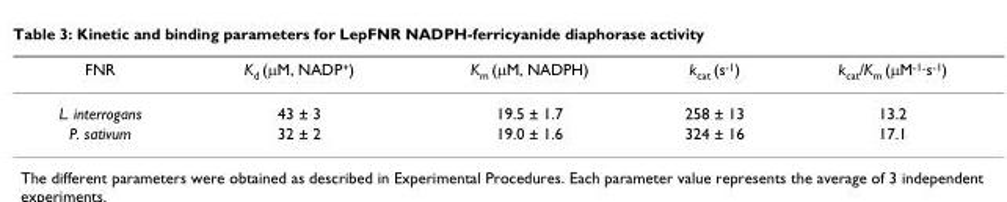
<table><thead><tr><td>FNR</td><td>K<sub>d</sub> (µM, NADP<sup>+</sup>)</td><td>K<sub>m</sub> (µM, NADPH)</td><td>k<sub>cat</sub> (s<sup>-1</sup>)</td><td>k<sub>cat</sub>/K<sub>m</sub> (µM<sup>-1</sup>·s<sup>-1</sup>)</td></tr></thead><tbody><tr><td>L. interrogans</td><td>43 ± 3</td><td>19.5 ± 1.7</td><td>258 ± 13</td><td>13.2</td></tr><tr><td>P. sativum</td><td>32 ± 2</td><td>19.0 ± 1.6</td><td>324 ± 16</td><td>17.1</td></tr></tbody></table>